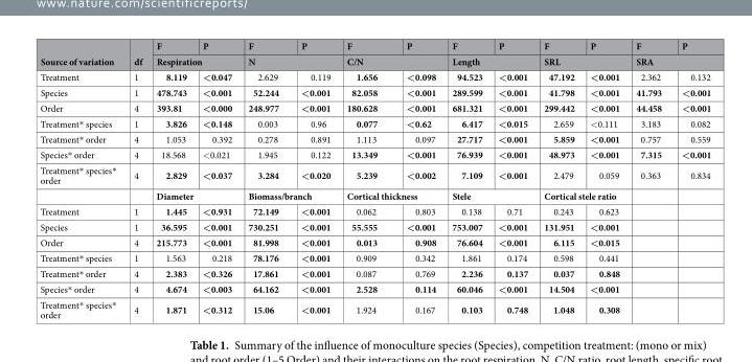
<table><thead><tr><td rowspan="2">Source of variation</td><td rowspan="2">df</td><td>F</td><td>P</td><td>F</td><td>P</td><td>F</td><td>P</td><td>F</td><td>P</td><td>F</td><td>P</td><td>F</td><td>P</td></tr><tr><td colspan="2">Respiration</td><td colspan="2">N</td><td colspan="2">C/N</td><td colspan="2">Length</td><td colspan="2">SRL</td><td colspan="2">SRA</td></tr></thead><tbody><tr><td>Treatment</td><td>1</td><td>8.119</td><td>&lt;0.047</td><td>2.629</td><td>0.119</td><td>1.656</td><td>&lt;0.098</td><td>94.523</td><td>&lt;0.001</td><td>47.192</td><td>&lt;0.001</td><td>2.362</td><td>0.132</td></tr><tr><td>Species</td><td>1</td><td>478.743</td><td>&lt;0.001</td><td>52.244</td><td>&lt;0.001</td><td>82.058</td><td>&lt;0.001</td><td>289.599</td><td>&lt;0.001</td><td>41.798</td><td>&lt;0.001</td><td>41.793</td><td>&lt;0.001</td></tr><tr><td>Order</td><td>4</td><td>393.81</td><td>&lt;0.000</td><td>248.977</td><td>&lt;0.001</td><td>180.628</td><td>&lt;0.001</td><td>681.321</td><td>&lt;0.001</td><td>299.442</td><td>&lt;0.001</td><td>44.458</td><td>&lt;0.001</td></tr><tr><td>Treatment* species</td><td>1</td><td>3.826</td><td>&lt;0.148</td><td>0.003</td><td>0.96</td><td>0.077</td><td>&lt;0.62</td><td>6.417</td><td>&lt;0.015</td><td>2.659</td><td>&lt;0.111</td><td>3.183</td><td>0.082</td></tr><tr><td>Treatment* order</td><td>4</td><td>1.053</td><td>0.392</td><td>0.278</td><td>0.891</td><td>1.113</td><td>0.097</td><td>27.717</td><td>&lt;0.001</td><td>5.859</td><td>&lt;0.001</td><td>0.757</td><td>0.559</td></tr><tr><td>Species* order</td><td>4</td><td>18.568</td><td>&lt;0.021</td><td>1.945</td><td>0.122</td><td>13.349</td><td>&lt;0.001</td><td>76.939</td><td>&lt;0.001</td><td>48.973</td><td>&lt;0.001</td><td>7.315</td><td>&lt;0.001</td></tr><tr><td rowspan="2">Treatment* species* order</td><td>4</td><td>2.829</td><td>&lt;0.037</td><td>3.284</td><td>&lt;0.020</td><td>5.239</td><td>&lt;0.002</td><td>7.109</td><td>&lt;0.001</td><td>2.479</td><td>0.059</td><td>0.363</td><td>0.834</td></tr><tr><td></td><td colspan="2">Diameter</td><td colspan="2">Biomass/branch</td><td colspan="2">Cortical thickness</td><td colspan="2">Stele</td><td colspan="2">Cortical stele ratio</td><td></td><td></td></tr><tr><td>Treatment</td><td>1</td><td>1.445</td><td>&lt;0.931</td><td>72.149</td><td>&lt;0.001</td><td>0.062</td><td>0.803</td><td>0.138</td><td>0.71</td><td>0.243</td><td>0.623</td><td></td><td></td></tr><tr><td>Species</td><td>1</td><td>36.595</td><td>&lt;0.001</td><td>730.251</td><td>&lt;0.001</td><td>55.555</td><td>&lt;0.001</td><td>753.007</td><td>&lt;0.001</td><td>131.951</td><td>&lt;0.001</td><td></td><td></td></tr><tr><td>Order</td><td>4</td><td>215.773</td><td>&lt;0.001</td><td>81.998</td><td>&lt;0.001</td><td>0.013</td><td>0.908</td><td>76.604</td><td>&lt;0.001</td><td>6.115</td><td>&lt;0.015</td><td></td><td></td></tr><tr><td>Treatment* species</td><td>1</td><td>1.563</td><td>0.218</td><td>78.176</td><td>&lt;0.001</td><td>0.909</td><td>0.342</td><td>1.861</td><td>0.174</td><td>0.598</td><td>0.441</td><td></td><td></td></tr><tr><td>Treatment* order</td><td>4</td><td>2.383</td><td>&lt;0.326</td><td>17.861</td><td>&lt;0.001</td><td>0.087</td><td>0.769</td><td>2.236</td><td>0.137</td><td>0.037</td><td>0.848</td><td></td><td></td></tr><tr><td>Species* order</td><td>4</td><td>4.674</td><td>&lt;0.003</td><td>64.162</td><td>&lt;0.001</td><td>2.528</td><td>0.114</td><td>60.046</td><td>&lt;0.001</td><td>14.504</td><td>&lt;0.001</td><td></td><td></td></tr><tr><td>Treatment* species* order</td><td>4</td><td>1.871</td><td>&lt;0.312</td><td>15.06</td><td>&lt;0.001</td><td>1.924</td><td>0.167</td><td>0.103</td><td>0.748</td><td>1.048</td><td>0.308</td><td></td><td></td></tr></tbody></table>